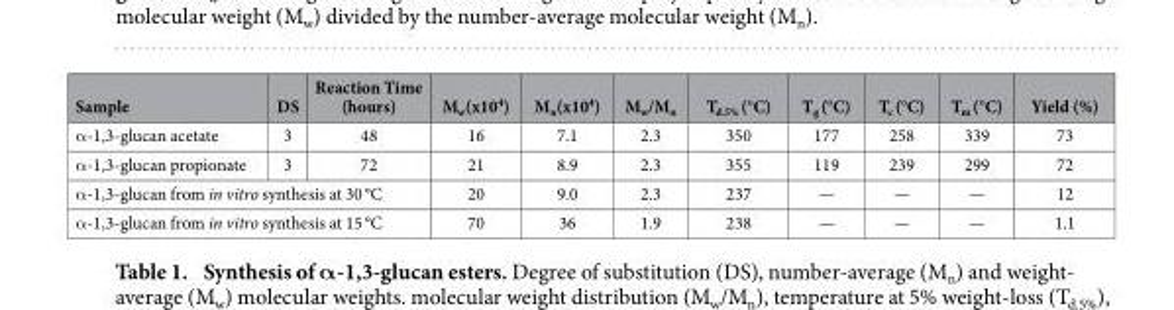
<table><thead><tr><td>Sample</td><td>DS</td><td>Reaction Time (hours)</td><td>M<sub>w</sub>(x10<sup>4</sup>)</td><td>M<sub>n</sub>(x10<sup>4</sup>)</td><td>M<sub>w</sub>/M<sub>n</sub></td><td>T<sub>d.5%</sub> (°C)</td><td>T<sub>g</sub> (°C)</td><td>T<sub>c</sub> (°C)</td><td>T<sub>m</sub> (°C)</td><td>Yield (%)</td></tr></thead><tbody><tr><td>α -1,3-glucan acetate</td><td>3</td><td>48</td><td>16</td><td>7.1</td><td>2.3</td><td>350</td><td>177</td><td>258</td><td>339</td><td>73</td></tr><tr><td>α -1,3-glucan propionate</td><td>3</td><td>72</td><td>21</td><td>8.9</td><td>2.3</td><td>355</td><td>119</td><td>239</td><td>299</td><td>72</td></tr><tr><td colspan="3">α -1,3-glucan from in vitro synthesis at 30 °C</td><td>20</td><td>9.0</td><td>2.3</td><td>237</td><td>—</td><td>—</td><td>—</td><td>12</td></tr><tr><td colspan="3">α -1,3-glucan from in vitro synthesis at 15 °C</td><td>70</td><td>36</td><td>1.9</td><td>238</td><td>—</td><td>—</td><td>—</td><td>1.1</td></tr></tbody></table>